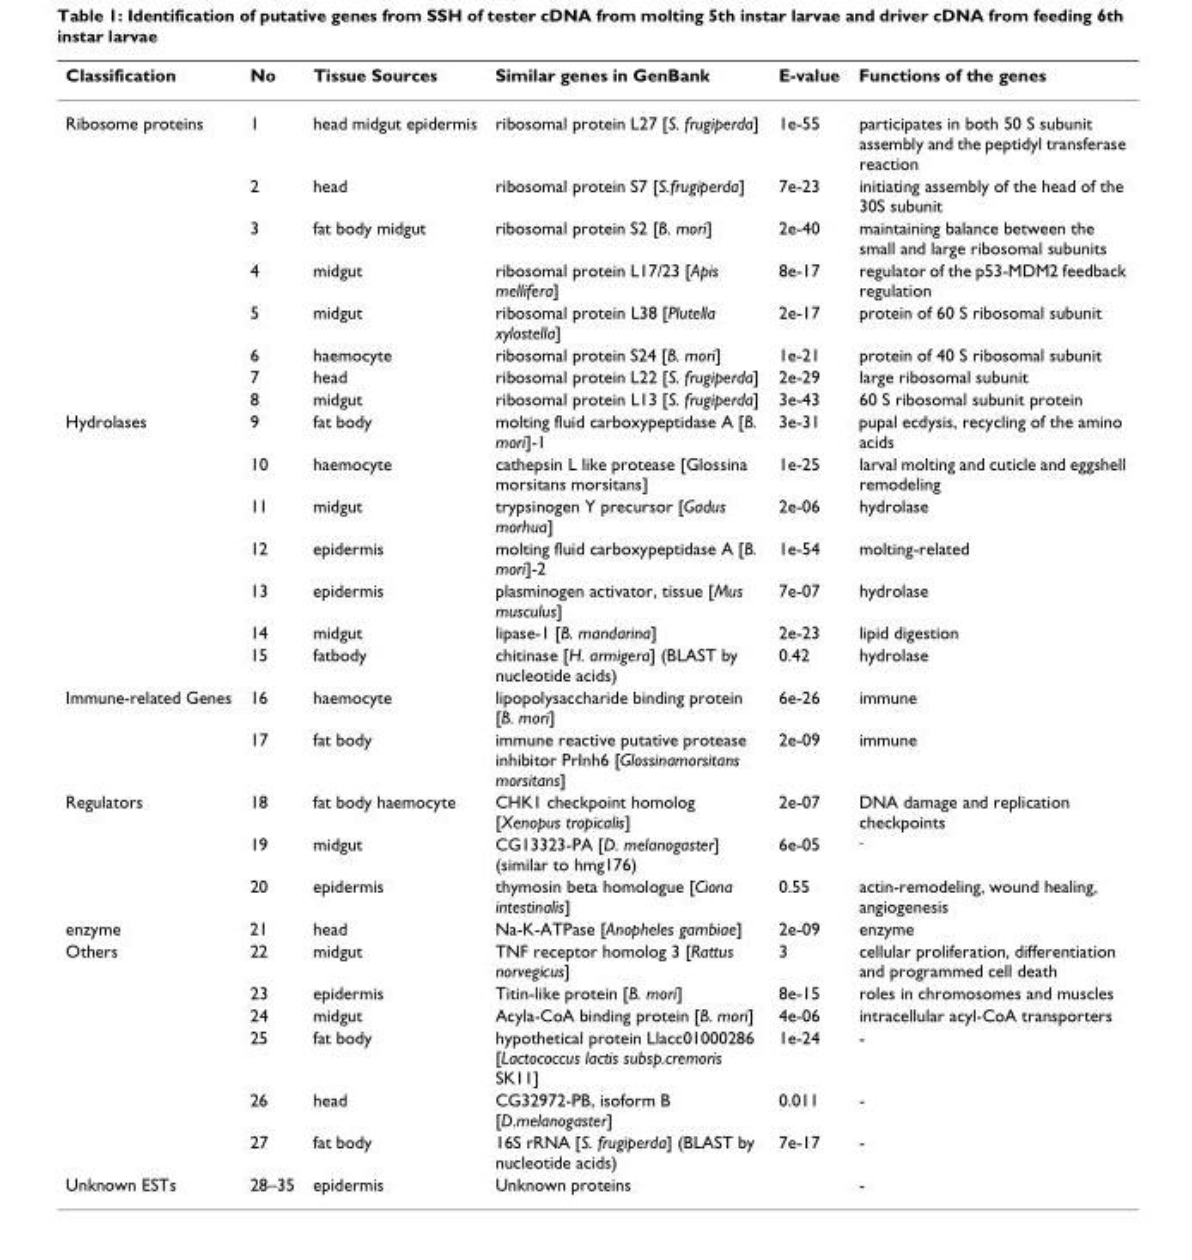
<table><thead><tr><td>Classification</td><td>No</td><td>Tissue Sources</td><td>Similar genes in GenBank</td><td>E-value</td><td>Functions of the genes</td></tr></thead><tbody><tr><td rowspan="8">Ribosome proteins</td><td>1</td><td>head midgut epidermis</td><td>ribosomal protein L27 [S. frugiperda]</td><td>1e-55</td><td>participates in both 50 S subunit assembly and the peptidyl transferase reaction</td></tr><tr><td>2</td><td>head</td><td>ribosomal protein S7 [S.frugiperda]</td><td>7e-23</td><td>initiating assembly of the head of the 30S subunit</td></tr><tr><td>3</td><td>fat body midgut</td><td>ribosomal protein S2 [B. mori]</td><td>2e-40</td><td>maintaining balance between the small and large ribosomal subunits</td></tr><tr><td>4</td><td>midgut</td><td>ribosomal protein L17/23 [Apis mellifera]</td><td>8e-17</td><td>regulator of the p53-MDM2 feedback regulation</td></tr><tr><td>5</td><td>midgut</td><td>ribosomal protein L38 [Plutella xylostella]</td><td>2e-17</td><td>protein of 60 S ribosomal subunit</td></tr><tr><td>6</td><td>haemocyte</td><td>ribosomal protein S24 [B. mori]</td><td>1e-21</td><td>protein of 40 S ribosomal subunit</td></tr><tr><td>7</td><td>head</td><td>ribosomal protein L22 [S. frugiperda]</td><td>2e-29</td><td>large ribosomal subunit</td></tr><tr><td>8</td><td>midgut</td><td>ribosomal protein L13 [S. frugiperda]</td><td>3e-43</td><td>60 S ribosomal subunit protein</td></tr><tr><td rowspan="7">Hydrolases</td><td>9</td><td>fat body</td><td>molting fluid carboxypeptidase A [B. mori]-1</td><td>3e-31</td><td>pupal ecdysis, recycling of the amino acids</td></tr><tr><td>10</td><td>haemocyte</td><td>cathepsin L like protease [Glossina morsitans morsitans]</td><td>1e-25</td><td>larval molting and cuticle and eggshell remodeling</td></tr><tr><td>11</td><td>midgut</td><td>trypsinogen Y precursor [Gadus morhua]</td><td>2e-06</td><td>hydrolase</td></tr><tr><td>12</td><td>epidermis</td><td>molting fluid carboxypeptidase A [B. mori]-2</td><td>1e-54</td><td>molting-related</td></tr><tr><td>13</td><td>epidermis</td><td>plasminogen activator, tissue [Mus musculus]</td><td>7e-07</td><td>hydrolase</td></tr><tr><td>14</td><td>midgut</td><td>lipase-1 [B. mandarina]</td><td>2e-23</td><td>lipid digestion</td></tr><tr><td>15</td><td>fatbody</td><td>chitinase [H. armigera] (BLAST by nucleotide acids)</td><td>0.42</td><td>hydrolase</td></tr><tr><td rowspan="2">Immune-related Genes</td><td>16</td><td>haemocyte</td><td>lipopolysaccharide binding protein [B. mori]</td><td>6e-26</td><td>immune</td></tr><tr><td>17</td><td>fat body</td><td>immune reactive putative protease inhibitor PrInh6 [Glossinamorsitans morsitans]</td><td>2e-09</td><td>immune</td></tr><tr><td rowspan="3">Regulators</td><td>18</td><td>fat body haemocyte</td><td>CHK1 checkpoint homolog [Xenopus tropicalis]</td><td>2e-07</td><td>DNA damage and replication checkpoints</td></tr><tr><td>19</td><td>midgut</td><td>CG13323-PA [D. melanogaster] (similar to hmg176)</td><td>6e-05</td><td><sup>-</sup></td></tr><tr><td>20</td><td>epidermis</td><td>thymosin beta homologue [Ciona intestinalis]</td><td>0.55</td><td>actin-remodeling, wound healing, angiogenesis</td></tr><tr><td>enzyme</td><td>21</td><td>head</td><td>Na-K-ATPase [Anopheles gambiae]</td><td>2e-09</td><td>enzyme</td></tr><tr><td rowspan="6">Others</td><td>22</td><td>midgut</td><td>TNF receptor homolog 3 [Rattus norvegicus]</td><td>3</td><td>cellular proliferation, differentiation and programmed cell death</td></tr><tr><td>23</td><td>epidermis</td><td>Titin-like protein [B. mori]</td><td>8e-15</td><td>roles in chromosomes and muscles</td></tr><tr><td>24</td><td>midgut</td><td>Acyla-CoA binding protein [B. mori]</td><td>4e-06</td><td>intracellular acyl-CoA transporters</td></tr><tr><td>25</td><td>fat body</td><td>hypothetical protein Llacc01000286 [Lactococcus lactis subsp.cremoris SK11]</td><td>1e-24</td><td>-</td></tr><tr><td>26</td><td>head</td><td>CG32972-PB, isoform B [D.melanogaster]</td><td>0.011</td><td>-</td></tr><tr><td>27</td><td>fat body</td><td>16S rRNA [S. frugiperda] (BLAST by nucleotide acids)</td><td>7e-17</td><td>-</td></tr><tr><td>Unknown ESTs</td><td>28–35</td><td>epidermis</td><td>Unknown proteins</td><td></td><td>-</td></tr></tbody></table>